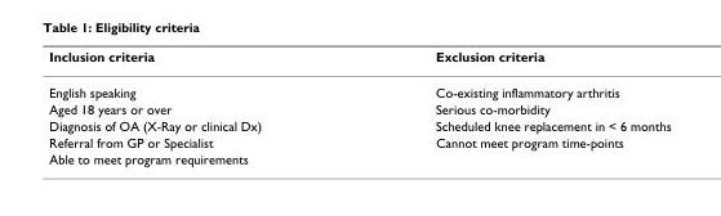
<table><thead><tr><td>Inclusion criteria</td><td>Exclusion criteria</td></tr></thead><tbody><tr><td>English speaking</td><td>Co-existing inflammatory arthritis</td></tr><tr><td>Aged 18 years or over</td><td>Serious co-morbidity</td></tr><tr><td>Diagnosis of OA (X-Ray or clinical Dx)</td><td>Scheduled knee replacement in &lt; 6 months</td></tr><tr><td>Referral from GP or Specialist</td><td>Cannot meet program time-points</td></tr><tr><td>Able to meet program requirements</td><td></td></tr></tbody></table>